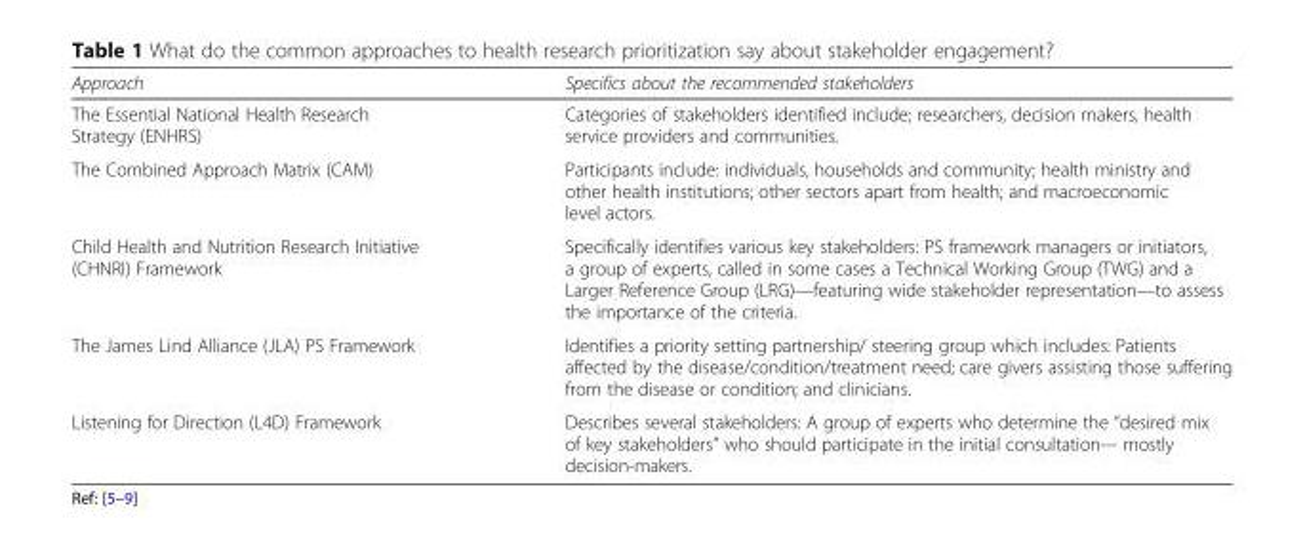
<table><thead><tr><td>Approach</td><td>Specifics about the recommended stakeholders</td></tr></thead><tbody><tr><td>The Essential National Health Research Strategy (ENHRS)</td><td>Categories of stakeholders identified include; researchers, decision makers, health service providers and communities.</td></tr><tr><td>The Combined Approach Matrix (CAM)</td><td>Participants include: individuals, households and community; health ministry and other health institutions; other sectors apart from health; and macroeconomic level actors.</td></tr><tr><td>Child Health and Nutrition Research Initiative (CHNRI) Framework</td><td>Specifically identifies various key stakeholders: PS framework managers or initiators, a group of experts, called in some cases a Technical Working Group (TWG) and a Larger Reference Group (LRG)—featuring wide stakeholder representation—to assess the importance of the criteria.</td></tr><tr><td>The James Lind Alliance (JLA) PS Framework</td><td>Identifies a priority setting partnership/ steering group which includes: Patients affected by the disease/condition/treatment need; care givers assisting those suffering from the disease or condition; and clinicians.</td></tr><tr><td>Listening for Direction (L4D) Framework</td><td>Describes several stakeholders: A group of experts who determine the “desired mix of key stakeholders” who should participate in the initial consultation--- mostly decision-makers.</td></tr></tbody></table>